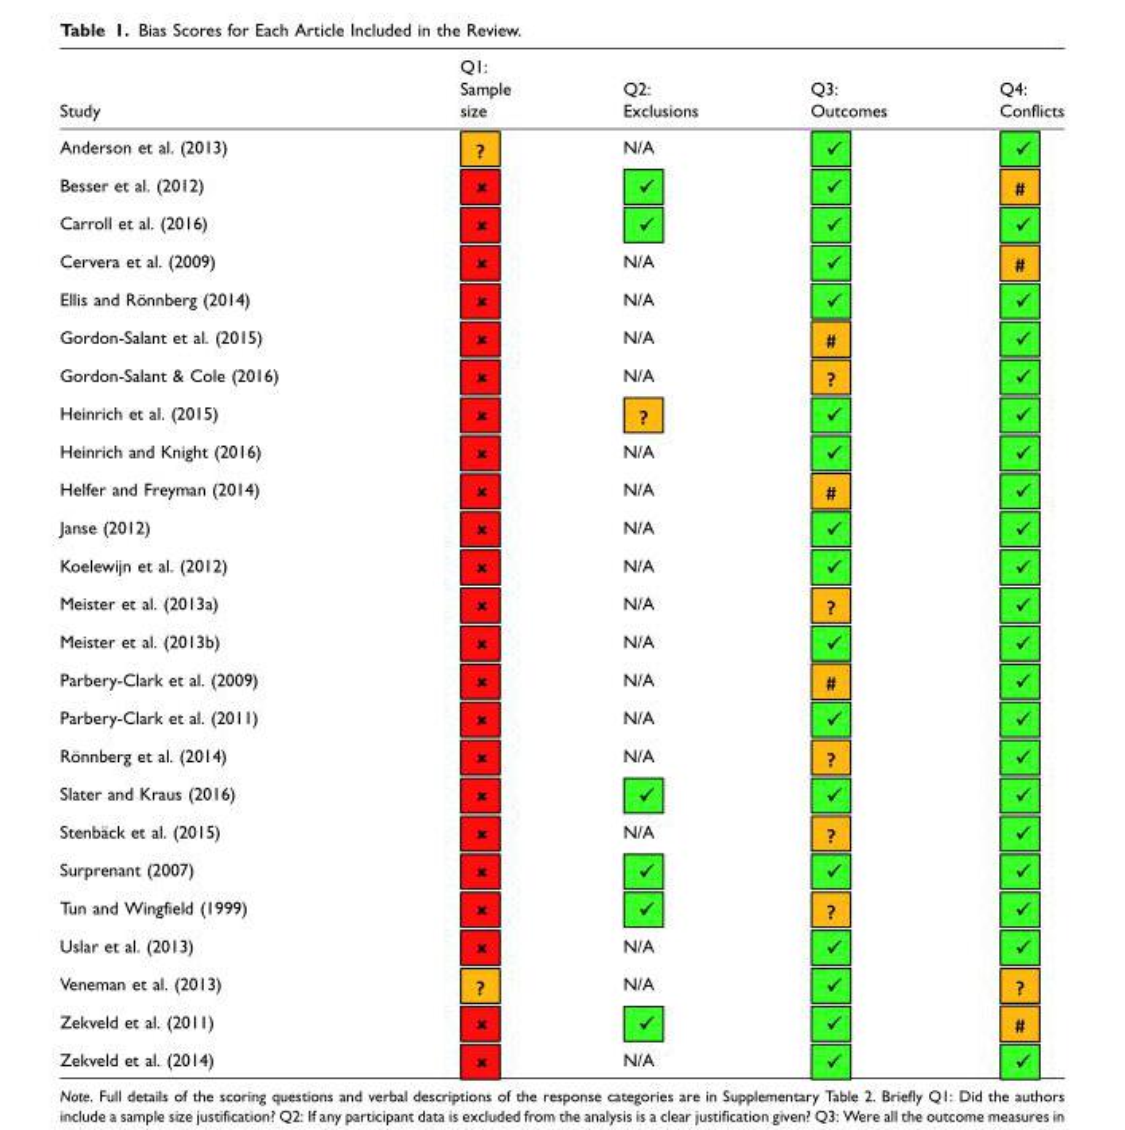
<table><thead><tr><td>Study</td><td>Q1: Sample size</td><td>Q2: Exclusions</td><td>Q3: Outcomes</td><td>Q4: Conflicts</td></tr></thead><tbody><tr><td>Anderson et al. (2013)</td><td></td><td>N/A</td><td></td><td></td></tr><tr><td colspan="5">Besser et al. (2012)</td></tr><tr><td colspan="5">Carroll et al. (2016)</td></tr><tr><td>Cervera et al. (2009)</td><td></td><td>N/A</td><td></td><td></td></tr><tr><td>Ellis and Ro¨nnberg (2014)</td><td></td><td>N/A</td><td></td><td></td></tr><tr><td>Gordon-Salant et al. (2015)</td><td></td><td>N/A</td><td></td><td></td></tr><tr><td>Gordon-Salant &amp; Cole (2016)</td><td></td><td>N/A</td><td></td><td></td></tr><tr><td colspan="5">Heinrich et al. (2015)</td></tr><tr><td>Heinrich and Knight (2016)</td><td></td><td>N/A</td><td></td><td></td></tr><tr><td>Helfer and Freyman (2014)</td><td></td><td>N/A</td><td></td><td></td></tr><tr><td>Janse (2012)</td><td></td><td>N/A</td><td></td><td></td></tr><tr><td>Koelewijn et al. (2012)</td><td></td><td>N/A</td><td></td><td></td></tr><tr><td>Meister et al. (2013a)</td><td></td><td>N/A</td><td></td><td></td></tr><tr><td>Meister et al. (2013b)</td><td></td><td>N/A</td><td></td><td></td></tr><tr><td>Parbery-Clark et al. (2009)</td><td></td><td>N/A</td><td></td><td></td></tr><tr><td>Parbery-Clark et al. (2011)</td><td></td><td>N/A</td><td></td><td></td></tr><tr><td>Ro¨nnberg et al. (2014)</td><td></td><td>N/A</td><td></td><td></td></tr><tr><td colspan="5">Slater and Kraus (2016)</td></tr><tr><td>Stenba¨ck et al. (2015)</td><td></td><td>N/A</td><td></td><td></td></tr><tr><td colspan="5">Surprenant (2007)</td></tr><tr><td colspan="5">Tun and Wingfield (1999)</td></tr><tr><td>Uslar et al. (2013)</td><td></td><td>N/A</td><td></td><td></td></tr><tr><td>Veneman et al. (2013)</td><td></td><td>N/A</td><td></td><td></td></tr><tr><td colspan="5">Zekveld et al. (2011)</td></tr><tr><td>Zekveld et al. (2014)</td><td></td><td>N/A</td><td></td><td></td></tr></tbody></table>